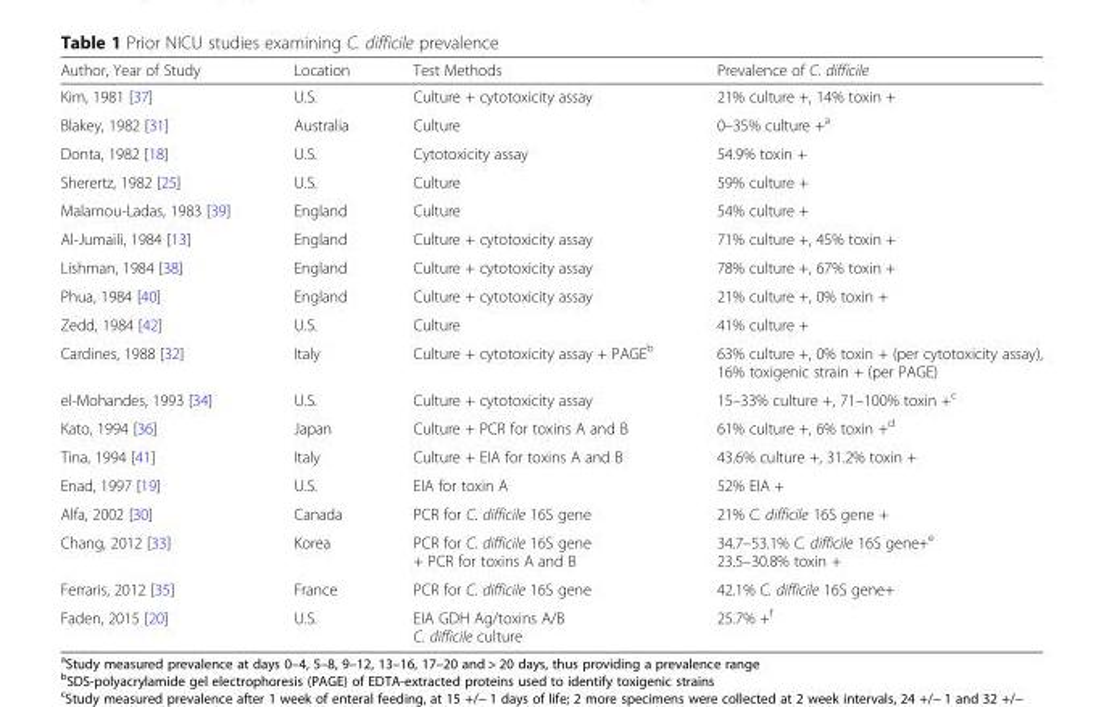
<table><thead><tr><td>Author, Year of Study</td><td>Location</td><td>Test Methods</td><td>Prevalence of C. difficile</td></tr></thead><tbody><tr><td>Kim, 1981 [37]</td><td>U.S.</td><td>Culture + cytotoxicity assay</td><td>21% culture +, 14% toxin +</td></tr><tr><td>Blakey, 1982 [31]</td><td>Australia</td><td>Culture</td><td>0–35% culture +<sup>a</sup></td></tr><tr><td>Donta, 1982 [18]</td><td>U.S.</td><td>Cytotoxicity assay</td><td>54.9% toxin +</td></tr><tr><td>Sherertz, 1982 [25]</td><td>U.S.</td><td>Culture</td><td>59% culture +</td></tr><tr><td>Malamou-Ladas, 1983 [39]</td><td>England</td><td>Culture</td><td>54% culture +</td></tr><tr><td>Al-Jumaili, 1984 [13]</td><td>England</td><td>Culture + cytotoxicity assay</td><td>71% culture +, 45% toxin +</td></tr><tr><td>Lishman, 1984 [38]</td><td>England</td><td>Culture + cytotoxicity assay</td><td>78% culture +, 67% toxin +</td></tr><tr><td>Phua, 1984 [40]</td><td>England</td><td>Culture + cytotoxicity assay</td><td>21% culture +, 0% toxin +</td></tr><tr><td>Zedd, 1984 [42]</td><td>U.S.</td><td>Culture</td><td>41% culture +</td></tr><tr><td>Cardines, 1988 [32]</td><td>Italy</td><td>Culture + cytotoxicity assay + PAGE<sup>b</sup></td><td>63% culture +, 0% toxin + (per cytotoxicity assay), 16% toxigenic strain + (per PAGE)</td></tr><tr><td>el-Mohandes, 1993 [34]</td><td>U.S.</td><td>Culture + cytotoxicity assay</td><td>15–33% culture +, 71–100% toxin +<sup>c</sup></td></tr><tr><td>Kato, 1994 [36]</td><td>Japan</td><td>Culture + PCR for toxins A and B</td><td>61% culture +, 6% toxin +<sup>d</sup></td></tr><tr><td>Tina, 1994 [41]</td><td>Italy</td><td>Culture + EIA for toxins A and B</td><td>43.6% culture +, 31.2% toxin +</td></tr><tr><td>Enad, 1997 [19]</td><td>U.S.</td><td>EIA for toxin A</td><td>52% EIA +</td></tr><tr><td>Alfa, 2002 [30]</td><td>Canada</td><td>PCR for C. difficile 16S gene</td><td>21% C. difficile 16S gene +</td></tr><tr><td>Chang, 2012 [33]</td><td>Korea</td><td>PCR for C. difficile 16S gene + PCR for toxins A and B</td><td>34.7–53.1% C. difficile 16S gene+<sup>e</sup> 23.5–30.8% toxin +</td></tr><tr><td>Ferraris, 2012 [35]</td><td>France</td><td>PCR for C. difficile 16S gene</td><td>42.1% C. difficile 16S gene+</td></tr><tr><td>Faden, 2015 [20]</td><td>U.S.</td><td>EIA GDH Ag/toxins A/B C. difficile culture</td><td>25.7% +<sup>f</sup></td></tr></tbody></table>